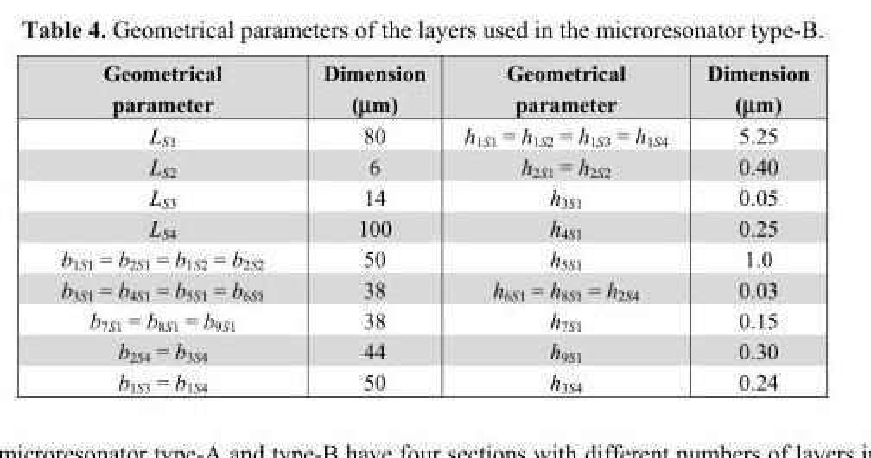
<table><thead><tr><td>Geometrical parameter</td><td>Dimension (μm)</td><td>Geometrical parameter</td><td>Dimension (μm)</td></tr></thead><tbody><tr><td>L<sub>S1</sub></td><td>80</td><td>h<sub>1S1</sub> = h<sub>1S2</sub> = h<sub>1S3</sub> = h<sub>1S4</sub></td><td>5.25</td></tr><tr><td>L<sub>S2</sub></td><td>6</td><td>h<sub>2S1</sub> = h<sub>2S2</sub></td><td>0.40</td></tr><tr><td>L<sub>S3</sub></td><td>14</td><td>h<sub>3S1</sub></td><td>0.05</td></tr><tr><td>L<sub>S4</sub></td><td>100</td><td>h<sub>4S1</sub></td><td>0.25</td></tr><tr><td>b<sub>1S1</sub> = b<sub>2S1</sub> = b<sub>1S2</sub> = b<sub>2S2</sub></td><td>50</td><td>h<sub>5S1</sub></td><td>1.0</td></tr><tr><td>b<sub>3S1</sub> = b<sub>4S1</sub> = b<sub>5S1</sub> = b<sub>6S1</sub></td><td>38</td><td>h<sub>6S1</sub> = h<sub>8S1</sub> = h<sub>2S4</sub></td><td>0.03</td></tr><tr><td>b<sub>7S1</sub> = b<sub>8S1</sub> = b<sub>9S1</sub></td><td>38</td><td>h<sub>7S1</sub></td><td>0.15</td></tr><tr><td>b<sub>2S4</sub> = b<sub>3S4</sub></td><td>44</td><td>h<sub>9S1</sub></td><td>0.30</td></tr><tr><td>b<sub>1S3</sub> = b<sub>1S4</sub></td><td>50</td><td>h<sub>3S4</sub></td><td>0.24</td></tr></tbody></table>